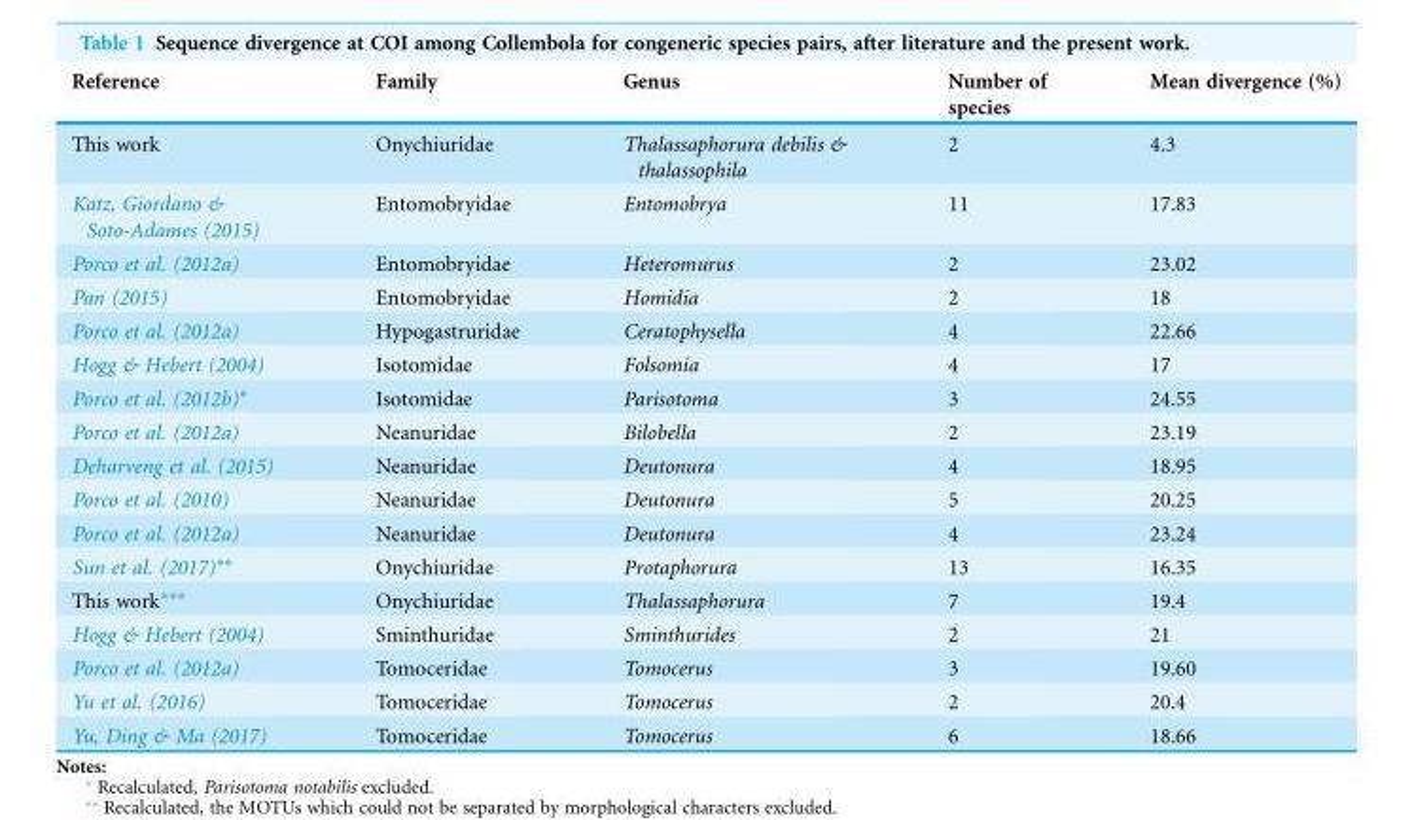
<table><thead><tr><td>Reference</td><td>Family</td><td>Genus</td><td>Number of species</td><td>Mean divergence (%)</td></tr></thead><tbody><tr><td>This work</td><td>Onychiuridae</td><td>Thalassaphorura debilis &amp; thalassophila</td><td>2</td><td>4.3</td></tr><tr><td>Katz, Giordano &amp; Soto-Adames (2015)</td><td>Entomobryidae</td><td>Entomobrya</td><td>11</td><td>17.83</td></tr><tr><td>Porco et al. (2012a)</td><td>Entomobryidae</td><td>Heteromurus</td><td>2</td><td>23.02</td></tr><tr><td>Pan (2015)</td><td>Entomobryidae</td><td>Homidia</td><td>2</td><td>18</td></tr><tr><td>Porco et al. (2012a)</td><td>Hypogastruridae</td><td>Ceratophysella</td><td>4</td><td>22.66</td></tr><tr><td>Hogg &amp; Hebert (2004)</td><td>Isotomidae</td><td>Folsomia</td><td>4</td><td>17</td></tr><tr><td>Porco et al. (2012b)*</td><td>Isotomidae</td><td>Parisotoma</td><td>3</td><td>24.55</td></tr><tr><td>Porco et al. (2012a)</td><td>Neanuridae</td><td>Bilobella</td><td>2</td><td>23.19</td></tr><tr><td>Deharveng et al. (2015)</td><td>Neanuridae</td><td>Deutonura</td><td>4</td><td>18.95</td></tr><tr><td>Porco et al. (2010)</td><td>Neanuridae</td><td>Deutonura</td><td>5</td><td>20.25</td></tr><tr><td>Porco et al. (2012a)</td><td>Neanuridae</td><td>Deutonura</td><td>4</td><td>23.24</td></tr><tr><td>Sun et al. (2017)**</td><td>Onychiuridae</td><td>Protaphorura</td><td>13</td><td>16.35</td></tr><tr><td>This work***</td><td>Onychiuridae</td><td>Thalassaphorura</td><td>7</td><td>19.4</td></tr><tr><td>Hogg &amp; Hebert (2004)</td><td>Sminthuridae</td><td>Sminthurides</td><td>2</td><td>21</td></tr><tr><td>Porco et al. (2012a)</td><td>Tomoceridae</td><td>Tomocerus</td><td>3</td><td>19.60</td></tr><tr><td>Yu et al. (2016)</td><td>Tomoceridae</td><td>Tomocerus</td><td>2</td><td>20.4</td></tr><tr><td>Yu, Ding &amp; Ma (2017)</td><td>Tomoceridae</td><td>Tomocerus</td><td>6</td><td>18.66</td></tr></tbody></table>